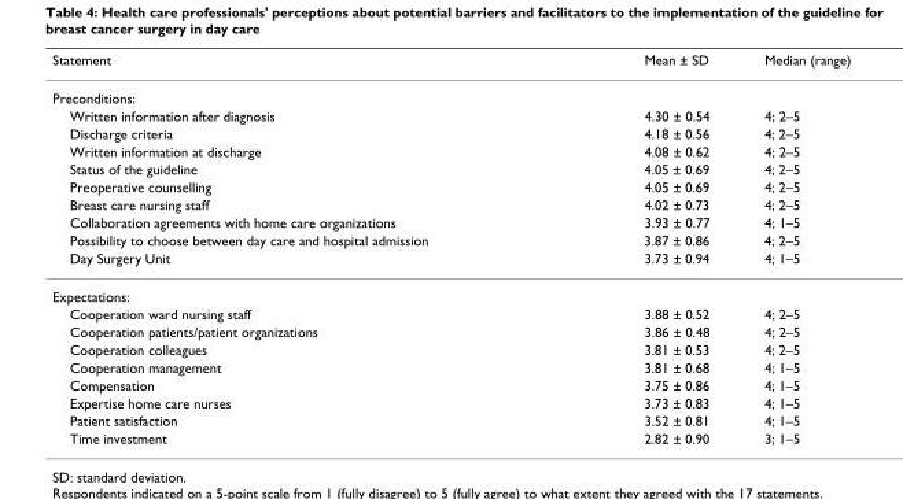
<table><thead><tr><td>Statement</td><td>Mean ± SD</td><td>Median (range)</td></tr></thead><tbody><tr><td colspan="3">Preconditions:</td></tr><tr><td>Written information after diagnosis</td><td>4.30 ± 0.54</td><td>4; 2–5</td></tr><tr><td>Discharge criteria</td><td>4.18 ± 0.56</td><td>4; 2–5</td></tr><tr><td>Written information at discharge</td><td>4.08 ± 0.62</td><td>4; 2–5</td></tr><tr><td>Status of the guideline</td><td>4.05 ± 0.69</td><td>4; 2–5</td></tr><tr><td>Preoperative counselling</td><td>4.05 ± 0.69</td><td>4; 2–5</td></tr><tr><td>Breast care nursing staff</td><td>4.02 ± 0.73</td><td>4; 2–5</td></tr><tr><td>Collaboration agreements with home care organizations</td><td>3.93 ± 0.77</td><td>4; 1–5</td></tr><tr><td>Possibility to choose between day care and hospital admission</td><td>3.87 ± 0.86</td><td>4; 2–5</td></tr><tr><td>Day Surgery Unit</td><td>3.73 ± 0.94</td><td>4; 1–5</td></tr><tr><td colspan="3">Expectations:</td></tr><tr><td>Cooperation ward nursing staff</td><td>3.88 ± 0.52</td><td>4; 2–5</td></tr><tr><td>Cooperation patients/patient organizations</td><td>3.86 ± 0.48</td><td>4; 2–5</td></tr><tr><td>Cooperation colleagues</td><td>3.81 ± 0.53</td><td>4; 2–5</td></tr><tr><td>Cooperation management</td><td>3.81 ± 0.68</td><td>4; 1–5</td></tr><tr><td>Compensation</td><td>3.75 ± 0.86</td><td>4; 1–5</td></tr><tr><td>Expertise home care nurses</td><td>3.73 ± 0.83</td><td>4; 1–5</td></tr><tr><td>Patient satisfaction</td><td>3.52 ± 0.81</td><td>4; 1–5</td></tr><tr><td>Time investment</td><td>2.82 ± 0.90</td><td>3; 1–5</td></tr></tbody></table>